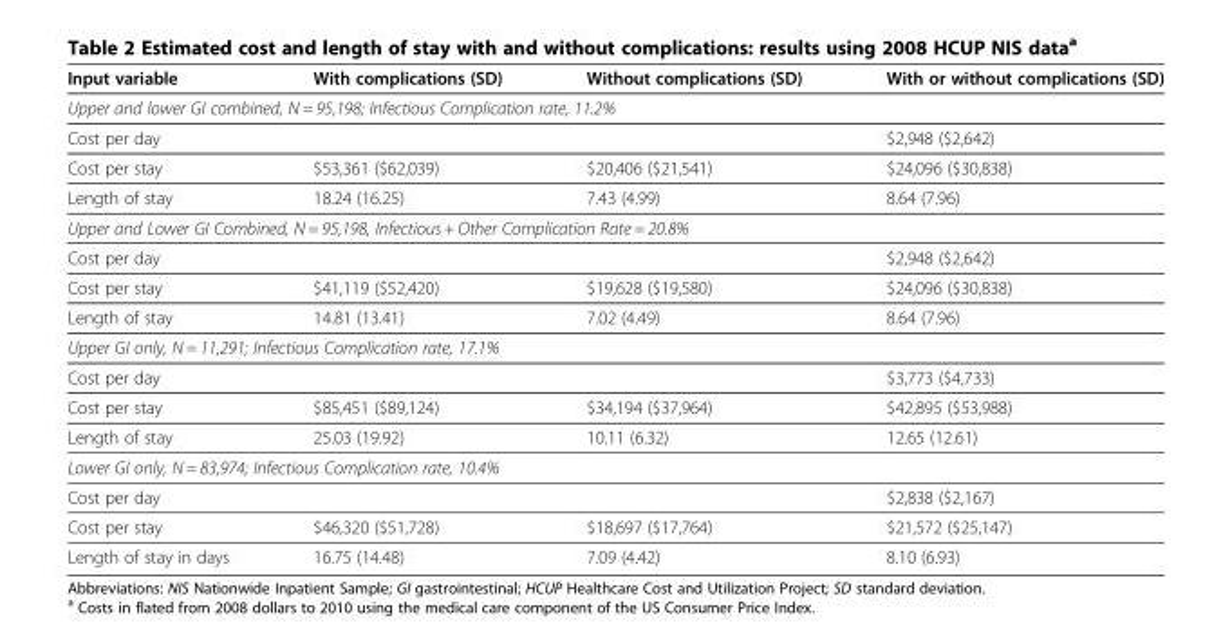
<table><thead><tr><td>Input variable</td><td>With complications (SD)</td><td>Without complications (SD)</td><td>With or without complications (SD)</td></tr></thead><tbody><tr><td colspan="4">Upper and lower GI combined, N = 95,198; Infectious Complication rate, 11.2%</td></tr><tr><td>Cost per day</td><td></td><td></td><td>$2,948 ($2,642)</td></tr><tr><td>Cost per stay</td><td>$53,361 ($62,039)</td><td>$20,406 ($21,541)</td><td>$24,096 ($30,838)</td></tr><tr><td>Length of stay</td><td>18.24 (16.25)</td><td>7.43 (4.99)</td><td>8.64 (7.96)</td></tr><tr><td colspan="4">Upper and Lower GI Combined, N = 95,198, Infectious + Other Complication Rate = 20.8%</td></tr><tr><td>Cost per day</td><td></td><td></td><td>$2,948 ($2,642)</td></tr><tr><td>Cost per stay</td><td>$41,119 ($52,420)</td><td>$19,628 ($19,580)</td><td>$24,096 ($30,838)</td></tr><tr><td>Length of stay</td><td>14.81 (13.41)</td><td>7.02 (4.49)</td><td>8.64 (7.96)</td></tr><tr><td colspan="4">Upper GI only, N = 11,291; Infectious Complication rate, 17.1%</td></tr><tr><td>Cost per day</td><td></td><td></td><td>$3,773 ($4,733)</td></tr><tr><td>Cost per stay</td><td>$85,451 ($89,124)</td><td>$34,194 ($37,964)</td><td>$42,895 ($53,988)</td></tr><tr><td>Length of stay</td><td>25.03 (19.92)</td><td>10.11 (6.32)</td><td>12.65 (12.61)</td></tr><tr><td colspan="4">Lower GI only, N = 83,974; Infectious Complication rate, 10.4%</td></tr><tr><td>Cost per day</td><td></td><td></td><td>$2,838 ($2,167)</td></tr><tr><td>Cost per stay</td><td>$46,320 ($51,728)</td><td>$18,697 ($17,764)</td><td>$21,572 ($25,147)</td></tr><tr><td>Length of stay in days</td><td>16.75 (14.48)</td><td>7.09 (4.42)</td><td>8.10 (6.93)</td></tr></tbody></table>